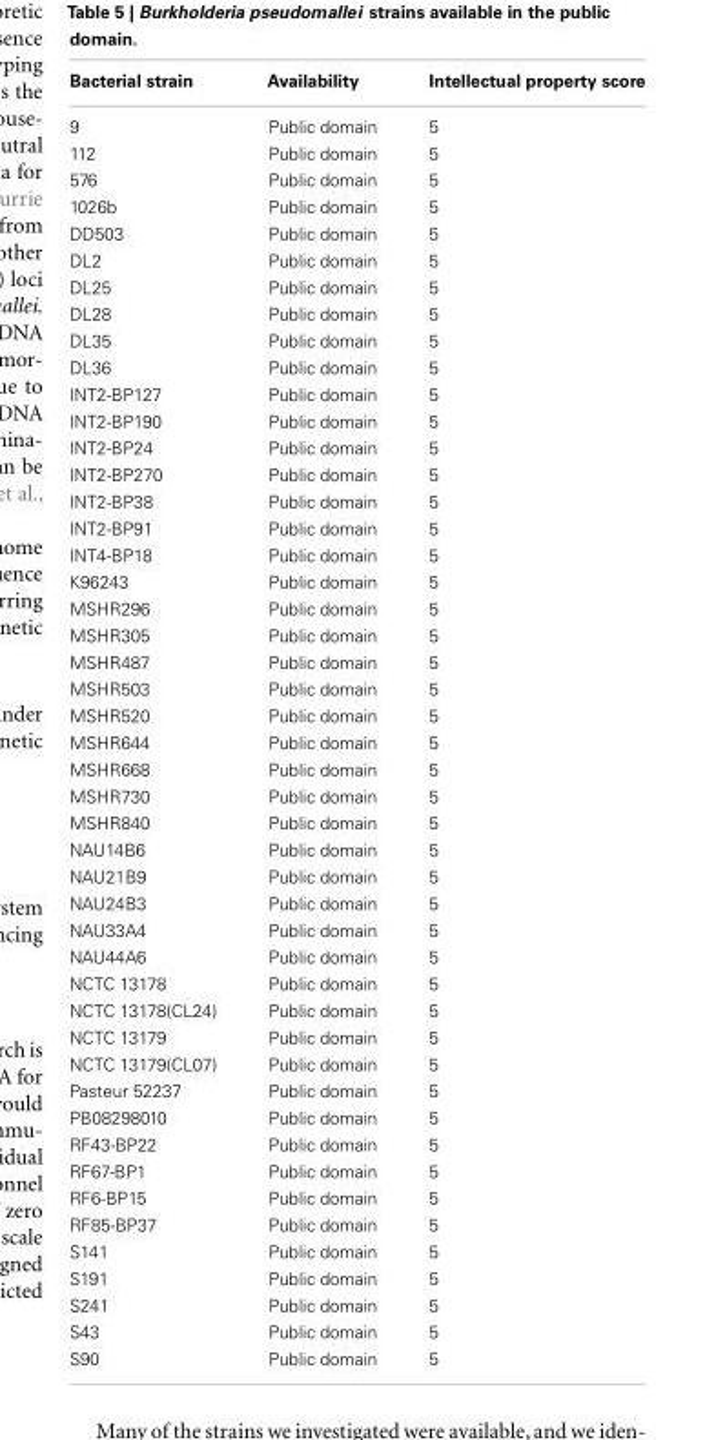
<table><thead><tr><td>Bacterial strain</td><td>Availability</td><td>Intellectual property score</td></tr></thead><tbody><tr><td>9</td><td>Public domain</td><td>5</td></tr><tr><td>112</td><td>Public domain</td><td>5</td></tr><tr><td>576</td><td>Public domain</td><td>5</td></tr><tr><td>1026b</td><td>Public domain</td><td>5</td></tr><tr><td>DD503</td><td>Public domain</td><td>5</td></tr><tr><td>DL2</td><td>Public domain</td><td>5</td></tr><tr><td>DL25</td><td>Public domain</td><td>5</td></tr><tr><td>DL28</td><td>Public domain</td><td>5</td></tr><tr><td>DL35</td><td>Public domain</td><td>5</td></tr><tr><td>DL36</td><td>Public domain</td><td>5</td></tr><tr><td>INT2-BP127</td><td>Public domain</td><td>5</td></tr><tr><td>INT2-BP190</td><td>Public domain</td><td>5</td></tr><tr><td>INT2-BP24</td><td>Public domain</td><td>5</td></tr><tr><td>INT2-BP270</td><td>Public domain</td><td>5</td></tr><tr><td>INT2-BP38</td><td>Public domain</td><td>5</td></tr><tr><td>INT2-BP91</td><td>Public domain</td><td>5</td></tr><tr><td>INT4-BP18</td><td>Public domain</td><td>5</td></tr><tr><td>K96243</td><td>Public domain</td><td>5</td></tr><tr><td>MSHR296</td><td>Public domain</td><td>5</td></tr><tr><td>MSHR305</td><td>Public domain</td><td>5</td></tr><tr><td>MSHR487</td><td>Public domain</td><td>5</td></tr><tr><td>MSHR503</td><td>Public domain</td><td>5</td></tr><tr><td>MSHR520</td><td>Public domain</td><td>5</td></tr><tr><td>MSHR644</td><td>Public domain</td><td>5</td></tr><tr><td>MSHR668</td><td>Public domain</td><td>5</td></tr><tr><td>MSHR730</td><td>Public domain</td><td>5</td></tr><tr><td>MSHR840</td><td>Public domain</td><td>5</td></tr><tr><td>NAU14B6</td><td>Public domain</td><td>5</td></tr><tr><td>NAU21B9</td><td>Public domain</td><td>5</td></tr><tr><td>NAU24B3</td><td>Public domain</td><td>5</td></tr><tr><td>NAU33A4</td><td>Public domain</td><td>5</td></tr><tr><td>NAU44A6</td><td>Public domain</td><td>5</td></tr><tr><td>NCTC 13178</td><td>Public domain</td><td>5</td></tr><tr><td>NCTC 13178(CL24)</td><td>Public domain</td><td>5</td></tr><tr><td>NCTC 13179</td><td>Public domain</td><td>5</td></tr><tr><td>NCTC 13179(CL07)</td><td>Public domain</td><td>5</td></tr><tr><td>Pasteur 52237</td><td>Public domain</td><td>5</td></tr><tr><td>PB08298010</td><td>Public domain</td><td>5</td></tr><tr><td>RF43-BP22</td><td>Public domain</td><td>5</td></tr><tr><td>RF67-BP1</td><td>Public domain</td><td>5</td></tr><tr><td>RF6-BP15</td><td>Public domain</td><td>5</td></tr><tr><td>RF85-BP37</td><td>Public domain</td><td>5</td></tr><tr><td>S141</td><td>Public domain</td><td>5</td></tr><tr><td>S191</td><td>Public domain</td><td>5</td></tr><tr><td>S241</td><td>Public domain</td><td>5</td></tr><tr><td>S43</td><td>Public domain</td><td>5</td></tr><tr><td>S90</td><td>Public domain</td><td>5</td></tr></tbody></table>